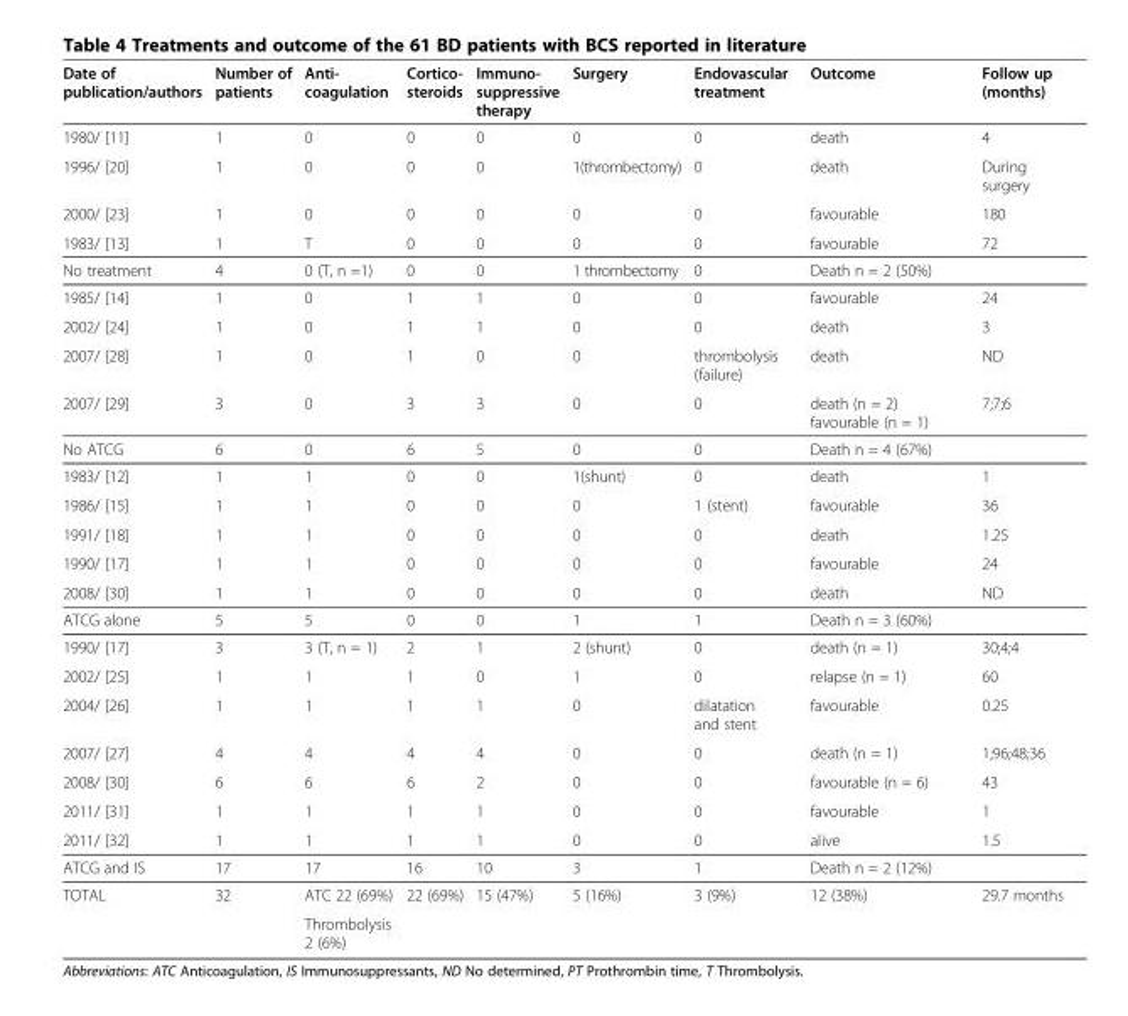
<table><thead><tr><td>Date of publication/authors</td><td>Number of patients</td><td>Anti- coagulation</td><td>Cortico- steroids</td><td>Immuno- suppressive therapy</td><td>Surgery</td><td>Endovascular treatment</td><td>Outcome</td><td>Follow up (months)</td></tr></thead><tbody><tr><td>1980/ [11]</td><td>1</td><td>0</td><td>0</td><td>0</td><td>0</td><td>0</td><td>death</td><td>4</td></tr><tr><td>1996/ [20]</td><td>1</td><td>0</td><td>0</td><td>0</td><td>1(thrombectomy)</td><td>0</td><td>death</td><td>During surgery</td></tr><tr><td>2000/ [23]</td><td>1</td><td>0</td><td>0</td><td>0</td><td>0</td><td>0</td><td>favourable</td><td>180</td></tr><tr><td>1983/ [13]</td><td>1</td><td>T</td><td>0</td><td>0</td><td>0</td><td>0</td><td>favourable</td><td>72</td></tr><tr><td>No treatment</td><td>4</td><td>0 (T, n =1)</td><td>0</td><td>0</td><td>1 thrombectomy</td><td>0</td><td>Death n = 2 (50%)</td><td></td></tr><tr><td>1985/ [14]</td><td>1</td><td>0</td><td>1</td><td>1</td><td>0</td><td>0</td><td>favourable</td><td>24</td></tr><tr><td>2002/ [24]</td><td>1</td><td>0</td><td>1</td><td>1</td><td>0</td><td>0</td><td>death</td><td>3</td></tr><tr><td>2007/ [28]</td><td>1</td><td>0</td><td>1</td><td>0</td><td>0</td><td>thrombolysis (failure)</td><td>death</td><td>ND</td></tr><tr><td>2007/ [29]</td><td>3</td><td>0</td><td>3</td><td>3</td><td>0</td><td>0</td><td>death (n = 2) favourable (n = 1)</td><td>7;7;6</td></tr><tr><td>No ATCG</td><td>6</td><td>0</td><td>6</td><td>5</td><td>0</td><td>0</td><td>Death n = 4 (67%)</td><td></td></tr><tr><td>1983/ [12]</td><td>1</td><td>1</td><td>0</td><td>0</td><td>1(shunt)</td><td>0</td><td>death</td><td>1</td></tr><tr><td>1986/ [15]</td><td>1</td><td>1</td><td>0</td><td>0</td><td>0</td><td>1 (stent)</td><td>favourable</td><td>36</td></tr><tr><td>1991/ [18]</td><td>1</td><td>1</td><td>0</td><td>0</td><td>0</td><td>0</td><td>death</td><td>1.25</td></tr><tr><td>1990/ [17]</td><td>1</td><td>1</td><td>0</td><td>0</td><td>0</td><td>0</td><td>favourable</td><td>24</td></tr><tr><td>2008/ [30]</td><td>1</td><td>1</td><td>0</td><td>0</td><td>0</td><td>0</td><td>death</td><td>ND</td></tr><tr><td>ATCG alone</td><td>5</td><td>5</td><td>0</td><td>0</td><td>1</td><td>1</td><td>Death n = 3 (60%)</td><td></td></tr><tr><td>1990/ [17]</td><td>3</td><td>3 (T, n = 1)</td><td>2</td><td>1</td><td>2 (shunt)</td><td>0</td><td>death (n = 1)</td><td>30;4;4</td></tr><tr><td>2002/ [25]</td><td>1</td><td>1</td><td>1</td><td>0</td><td>1</td><td>0</td><td>relapse (n = 1)</td><td>60</td></tr><tr><td>2004/ [26]</td><td>1</td><td>1</td><td>1</td><td>1</td><td>0</td><td>dilatation and stent</td><td>favourable</td><td>0.25</td></tr><tr><td>2007/ [27]</td><td>4</td><td>4</td><td>4</td><td>4</td><td>0</td><td>0</td><td>death (n = 1)</td><td>1;96;48;36</td></tr><tr><td>2008/ [30]</td><td>6</td><td>6</td><td>6</td><td>2</td><td>0</td><td>0</td><td>favourable (n = 6)</td><td>43</td></tr><tr><td>2011/ [31]</td><td>1</td><td>1</td><td>1</td><td>1</td><td>0</td><td>0</td><td>favourable</td><td>1</td></tr><tr><td>2011/ [32]</td><td>1</td><td>1</td><td>1</td><td>1</td><td>0</td><td>0</td><td>alive</td><td>1.5</td></tr><tr><td>ATCG and IS</td><td>17</td><td>17</td><td>16</td><td>10</td><td>3</td><td>1</td><td>Death n = 2 (12%)</td><td></td></tr><tr><td rowspan="2">TOTAL</td><td>32</td><td>ATC 22 (69%)</td><td>22 (69%)</td><td>15 (47%)</td><td>5 (16%)</td><td>3 (9%)</td><td>12 (38%)</td><td>29.7 months</td></tr><tr><td></td><td>Thrombolysis 2 (6%)</td><td></td><td></td><td></td><td></td><td></td><td></td></tr></tbody></table>